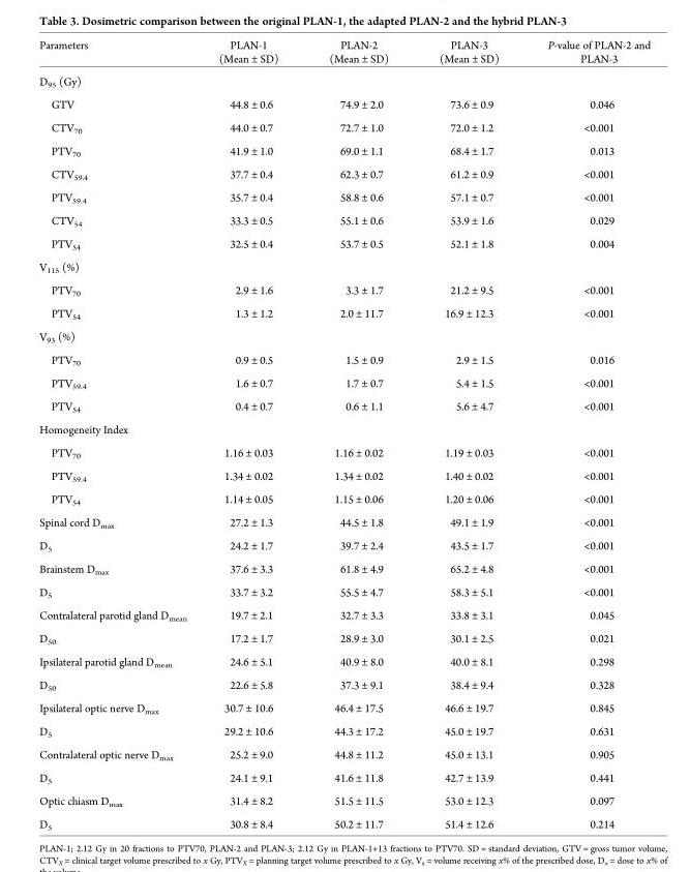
<table><thead><tr><td>Parameters</td><td>PLAN-1 (Mean ± SD)</td><td>PLAN-2 (Mean ± SD)</td><td>PLAN-3 (Mean ± SD)</td><td>P-value of PLAN-2 and PLAN-3</td></tr></thead><tbody><tr><td colspan="5">D<sub>95</sub> (Gy)</td></tr><tr><td>GTV</td><td>44.8 ± 0.6</td><td>74.9 ± 2.0</td><td>73.6 ± 0.9</td><td>0.046</td></tr><tr><td>CTV<sub>70</sub></td><td>44.0 ± 0.7</td><td>72.7 ± 1.0</td><td>72.0 ± 1.2</td><td>&lt;0.001</td></tr><tr><td>PTV<sub>70</sub></td><td>41.9 ± 1.0</td><td>69.0 ± 1.1</td><td>68.4 ± 1.7</td><td>0.013</td></tr><tr><td>CTV<sub>59.4</sub></td><td>37.7 ± 0.4</td><td>62.3 ± 0.7</td><td>61.2 ± 0.9</td><td>&lt;0.001</td></tr><tr><td>PTV<sub>59.4</sub></td><td>35.7 ± 0.4</td><td>58.8 ± 0.6</td><td>57.1 ± 0.7</td><td>&lt;0.001</td></tr><tr><td>CTV<sub>54</sub></td><td>33.3 ± 0.5</td><td>55.1 ± 0.6</td><td>53.9 ± 1.6</td><td>0.029</td></tr><tr><td>PTV<sub>54</sub></td><td>32.5 ± 0.4</td><td>53.7 ± 0.5</td><td>52.1 ± 1.8</td><td>0.004</td></tr><tr><td colspan="5">V<sub>115</sub> (%)</td></tr><tr><td>PTV<sub>70</sub></td><td>2.9 ± 1.6</td><td>3.3 ± 1.7</td><td>21.2 ± 9.5</td><td>&lt;0.001</td></tr><tr><td>PTV<sub>54</sub></td><td>1.3 ± 1.2</td><td>2.0 ± 11.7</td><td>16.9 ± 12.3</td><td>&lt;0.001</td></tr><tr><td colspan="5">V<sub>93</sub> (%)</td></tr><tr><td>PTV<sub>70</sub></td><td>0.9 ± 0.5</td><td>1.5 ± 0.9</td><td>2.9 ± 1.5</td><td>0.016</td></tr><tr><td>PTV<sub>59.4</sub></td><td>1.6 ± 0.7</td><td>1.7 ± 0.7</td><td>5.4 ± 1.5</td><td>&lt;0.001</td></tr><tr><td>PTV<sub>54</sub></td><td>0.4 ± 0.7</td><td>0.6 ± 1.1</td><td>5.6 ± 4.7</td><td>&lt;0.001</td></tr><tr><td colspan="5">Homogeneity Index</td></tr><tr><td>PTV<sub>70</sub></td><td>1.16 ± 0.03</td><td>1.16 ± 0.02</td><td>1.19 ± 0.03</td><td>&lt;0.001</td></tr><tr><td>PTV<sub>59.4</sub></td><td>1.34 ± 0.02</td><td>1.34 ± 0.02</td><td>1.40 ± 0.02</td><td>&lt;0.001</td></tr><tr><td>PTV<sub>54</sub></td><td>1.14 ± 0.05</td><td>1.15 ± 0.06</td><td>1.20 ± 0.06</td><td>&lt;0.001</td></tr><tr><td>Spinal cord D<sub>max</sub></td><td>27.2 ± 1.3</td><td>44.5 ± 1.8</td><td>49.1 ± 1.9</td><td>&lt;0.001</td></tr><tr><td>D<sub>5</sub></td><td>24.2 ± 1.7</td><td>39.7 ± 2.4</td><td>43.5 ± 1.7</td><td>&lt;0.001</td></tr><tr><td>Brainstem D<sub>max</sub></td><td>37.6 ± 3.3</td><td>61.8 ± 4.9</td><td>65.2 ± 4.8</td><td>&lt;0.001</td></tr><tr><td>D<sub>5</sub></td><td>33.7 ± 3.2</td><td>55.5 ± 4.7</td><td>58.3 ± 5.1</td><td>&lt;0.001</td></tr><tr><td>Contralateral parotid gland D<sub>mean</sub></td><td>19.7 ± 2.1</td><td>32.7 ± 3.3</td><td>33.8 ± 3.1</td><td>0.045</td></tr><tr><td>D<sub>50</sub></td><td>17.2 ± 1.7</td><td>28.9 ± 3.0</td><td>30.1 ± 2.5</td><td>0.021</td></tr><tr><td>Ipsilateral parotid gland D<sub>mean</sub></td><td>24.6 ± 5.1</td><td>40.9 ± 8.0</td><td>40.0 ± 8.1</td><td>0.298</td></tr><tr><td>D<sub>50</sub></td><td>22.6 ± 5.8</td><td>37.3 ± 9.1</td><td>38.4 ± 9.4</td><td>0.328</td></tr><tr><td>Ipsilateral optic nerve D<sub>max</sub></td><td>30.7 ± 10.6</td><td>46.4 ± 17.5</td><td>46.6 ± 19.7</td><td>0.845</td></tr><tr><td>D<sub>5</sub></td><td>29.2 ± 10.6</td><td>44.3 ± 17.2</td><td>45.0 ± 19.7</td><td>0.631</td></tr><tr><td>Contralateral optic nerve D<sub>max</sub></td><td>25.2 ± 9.0</td><td>44.8 ± 11.2</td><td>45.0 ± 13.1</td><td>0.905</td></tr><tr><td>D<sub>5</sub></td><td>24.1 ± 9.1</td><td>41.6 ± 11.8</td><td>42.7 ± 13.9</td><td>0.441</td></tr><tr><td>Optic chiasm D<sub>max</sub></td><td>31.4 ± 8.2</td><td>51.5 ± 11.5</td><td>53.0 ± 12.3</td><td>0.097</td></tr><tr><td>D<sub>5</sub></td><td>30.8 ± 8.4</td><td>50.2 ± 11.7</td><td>51.4 ± 12.6</td><td>0.214</td></tr></tbody></table>